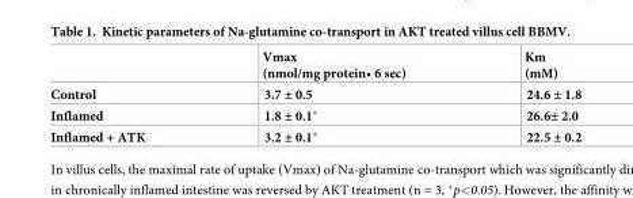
<table><thead><tr><td></td><td>Vmax (nmol/mg protein• 6 sec)</td><td>Km (mM)</td></tr></thead><tbody><tr><td>Control</td><td>3.7 ± 0.5</td><td>24.6 ± 1.8</td></tr><tr><td>Inflamed</td><td>1.8 ± 0.1*</td><td>26.6± 2.0</td></tr><tr><td>Inflamed + ATK</td><td>3.2 ± 0.1*</td><td>22.5 ± 0.2</td></tr></tbody></table>